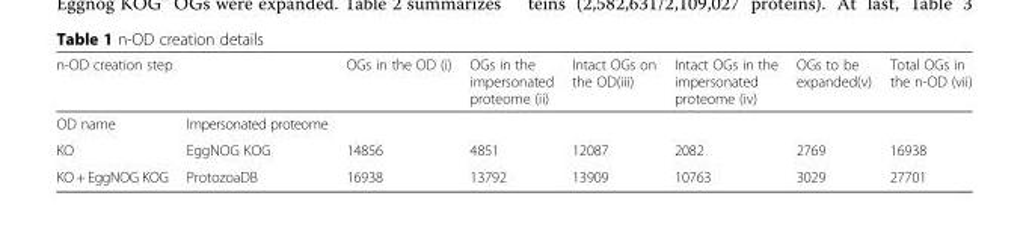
<table><thead><tr><td colspan="2">n-OD creation step</td><td rowspan="2">OGs in the OD (i)</td><td rowspan="2">OGs in the impersonated proteome (ii)</td><td rowspan="2">Intact OGs on the OD(iii)</td><td rowspan="2">Intact OGs in the impersonated proteome (iv)</td><td rowspan="2">OGs to be expanded(v)</td><td rowspan="2">Total OGs in the n-OD (vii)</td></tr><tr><td>OD name</td><td>Impersonated proteome</td></tr></thead><tbody><tr><td>KO</td><td>EggNOG KOG</td><td>14856</td><td>4851</td><td>12087</td><td>2082</td><td>2769</td><td>16938</td></tr><tr><td>KO + EggNOG KOG</td><td>ProtozoaDB</td><td>16938</td><td>13792</td><td>13909</td><td>10763</td><td>3029</td><td>27701</td></tr></tbody></table>